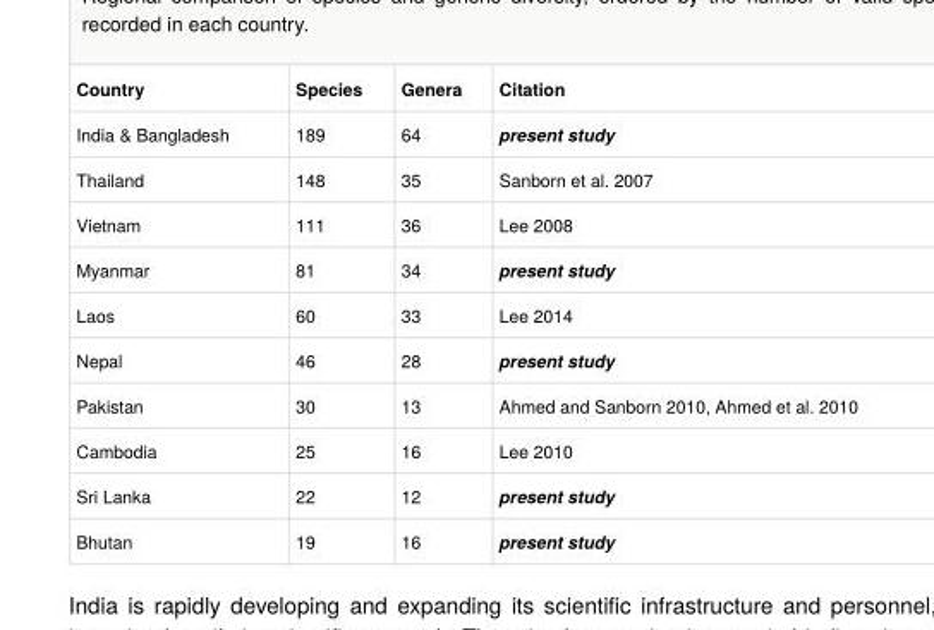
<table><tbody><tr><td>Country</td><td>Species</td><td>Genera</td><td>Citation</td></tr><tr><td>India &amp; Bangladesh</td><td>189</td><td>64</td><td>present study</td></tr><tr><td>Thailand</td><td>148</td><td>35</td><td>Sanborn et al. 2007</td></tr><tr><td>Vietnam</td><td>111</td><td>36</td><td>Lee 2008</td></tr><tr><td>Myanmar</td><td>81</td><td>34</td><td>present study</td></tr><tr><td>Laos</td><td>60</td><td>33</td><td>Lee 2014</td></tr><tr><td>Nepal</td><td>46</td><td>28</td><td>present study</td></tr><tr><td>Pakistan</td><td>30</td><td>13</td><td>Ahmed and Sanborn 2010, Ahmed et al. 2010</td></tr><tr><td>Cambodia</td><td>25</td><td>16</td><td>Lee 2010</td></tr><tr><td>Sri Lanka</td><td>22</td><td>12</td><td>present study</td></tr><tr><td>Bhutan</td><td>19</td><td>16</td><td>present study</td></tr></tbody></table>